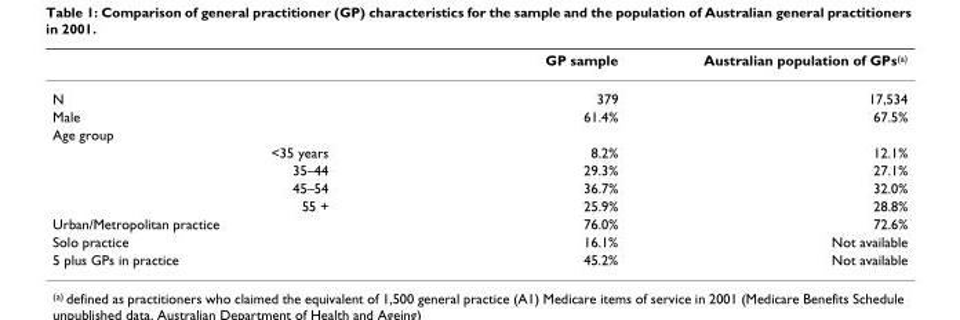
<table><thead><tr><td></td><td>GP sample</td><td>Australian population of GPs<sup>(a)</sup></td></tr></thead><tbody><tr><td>N</td><td>379</td><td>17,534</td></tr><tr><td>Male</td><td>61.4%</td><td>67.5%</td></tr><tr><td colspan="3">Age group</td></tr><tr><td>&lt;35 years</td><td>8.2%</td><td>12.1%</td></tr><tr><td>35–44</td><td>29.3%</td><td>27.1%</td></tr><tr><td>45–54</td><td>36.7%</td><td>32.0%</td></tr><tr><td>55 +</td><td>25.9%</td><td>28.8%</td></tr><tr><td>Urban/Metropolitan practice</td><td>76.0%</td><td>72.6%</td></tr><tr><td>Solo practice</td><td>16.1%</td><td>Not available</td></tr><tr><td>5 plus GPs in practice</td><td>45.2%</td><td>Not available</td></tr></tbody></table>